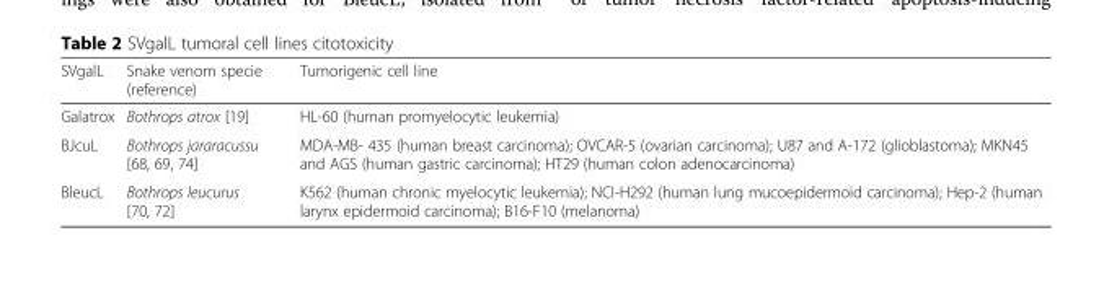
<table><thead><tr><td>SVgalL</td><td>Snake venom specie (reference)</td><td>Tumorigenic cell line</td></tr></thead><tbody><tr><td>Galatrox</td><td>Bothrops atrox [19]</td><td>HL-60 (human promyelocytic leukemia)</td></tr><tr><td>BJcuL</td><td>Bothrops jararacussu [68, 69, 74]</td><td>MDA-MB- 435 (human breast carcinoma); OVCAR-5 (ovarian carcinoma); U87 and A-172 (glioblastoma); MKN45 and AGS (human gastric carcinoma); HT29 (human colon adenocarcinoma)</td></tr><tr><td>BleucL</td><td>Bothrops leucurus [70, 72]</td><td>K562 (human chronic myelocytic leukemia); NCI-H292 (human lung mucoepidermoid carcinoma); Hep-2 (human larynx epidermoid carcinoma); B16-F10 (melanoma)</td></tr></tbody></table>